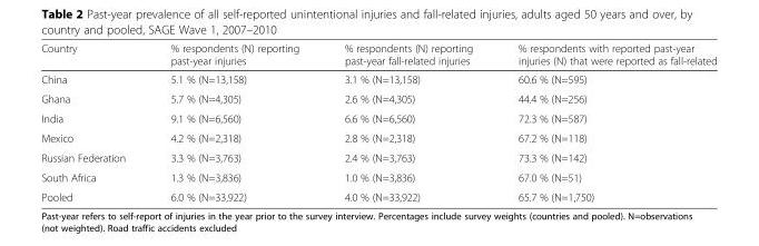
<table><thead><tr><td>Country</td><td>% respondents (N) reporting past-year injuries</td><td>% respondents (N) reporting past-year fall-related injuries</td><td>% respondents with reported past-year injuries (N) that were reported as fall-related</td></tr></thead><tbody><tr><td>China</td><td>5.1 % (N=13,158)</td><td>3.1 % (N=13,158)</td><td>60.6 % (N=595)</td></tr><tr><td>Ghana</td><td>5.7 % (N=4,305)</td><td>2.6 % (N=4,305)</td><td>44.4 % (N=256)</td></tr><tr><td>India</td><td>9.1 % (N=6,560)</td><td>6.6 % (N=6,560)</td><td>72.3 % (N=587)</td></tr><tr><td>Mexico</td><td>4.2 % (N=2,318)</td><td>2.8 % (N=2,318)</td><td>67.2 % (N=118)</td></tr><tr><td>Russian Federation</td><td>3.3 % (N=3,763)</td><td>2.4 % (N=3,763)</td><td>73.3 % (N=142)</td></tr><tr><td>South Africa</td><td>1.3 % (N=3,836)</td><td>1.0 % (N=3,836)</td><td>67.0 % (N=51)</td></tr><tr><td>Pooled</td><td>6.0 % (N=33,922)</td><td>4.0 % (N=33,922)</td><td>65.7 % (N=1,750)</td></tr></tbody></table>